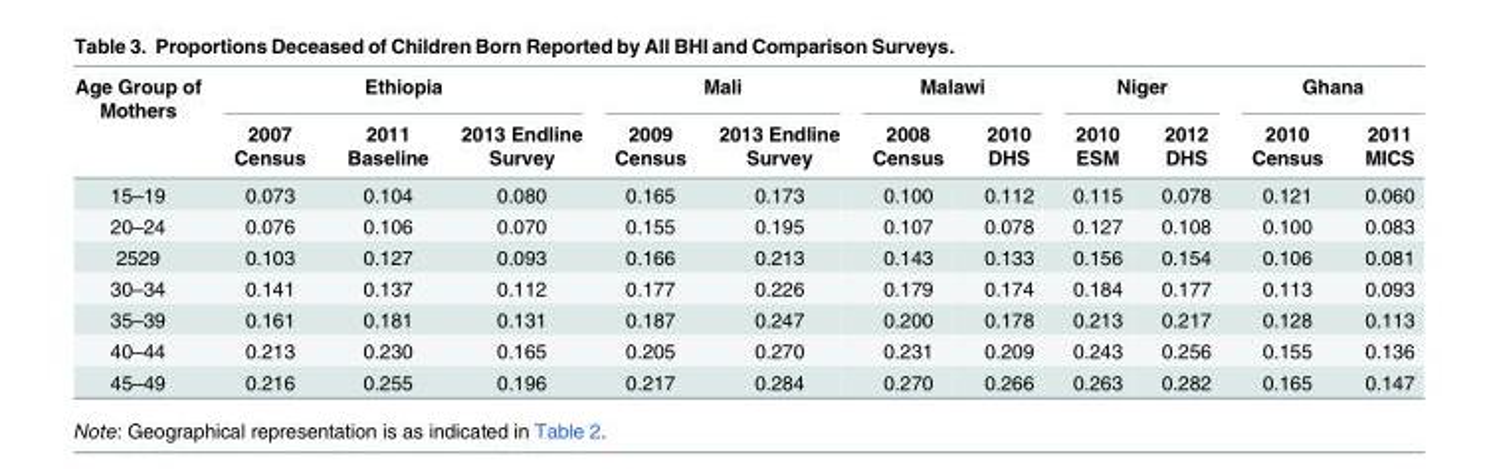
<table><thead><tr><td rowspan="2">Age Group of Mothers</td><td colspan="3">Ethiopia</td><td colspan="2">Mali</td><td colspan="2">Malawi</td><td colspan="2">Niger</td><td colspan="2">Ghana</td></tr><tr><td>2007 Census</td><td>2011 Baseline</td><td>2013 Endline Survey</td><td>2009 Census</td><td>2013 Endline Survey</td><td>2008 Census</td><td>2010 DHS</td><td>2010 ESM</td><td>2012 DHS</td><td>2010 Census</td><td>2011 MICS</td></tr></thead><tbody><tr><td>15–19</td><td>0.073</td><td>0.104</td><td>0.080</td><td>0.165</td><td>0.173</td><td>0.100</td><td>0.112</td><td>0.115</td><td>0.078</td><td>0.121</td><td>0.060</td></tr><tr><td>20–24</td><td>0.076</td><td>0.106</td><td>0.070</td><td>0.155</td><td>0.195</td><td>0.107</td><td>0.078</td><td>0.127</td><td>0.108</td><td>0.100</td><td>0.083</td></tr><tr><td>2529</td><td>0.103</td><td>0.127</td><td>0.093</td><td>0.166</td><td>0.213</td><td>0.143</td><td>0.133</td><td>0.156</td><td>0.154</td><td>0.106</td><td>0.081</td></tr><tr><td>30–34</td><td>0.141</td><td>0.137</td><td>0.112</td><td>0.177</td><td>0.226</td><td>0.179</td><td>0.174</td><td>0.184</td><td>0.177</td><td>0.113</td><td>0.093</td></tr><tr><td>35–39</td><td>0.161</td><td>0.181</td><td>0.131</td><td>0.187</td><td>0.247</td><td>0.200</td><td>0.178</td><td>0.213</td><td>0.217</td><td>0.128</td><td>0.113</td></tr><tr><td>40–44</td><td>0.213</td><td>0.230</td><td>0.165</td><td>0.205</td><td>0.270</td><td>0.231</td><td>0.209</td><td>0.243</td><td>0.256</td><td>0.155</td><td>0.136</td></tr><tr><td>45–49</td><td>0.216</td><td>0.255</td><td>0.196</td><td>0.217</td><td>0.284</td><td>0.270</td><td>0.266</td><td>0.263</td><td>0.282</td><td>0.165</td><td>0.147</td></tr></tbody></table>